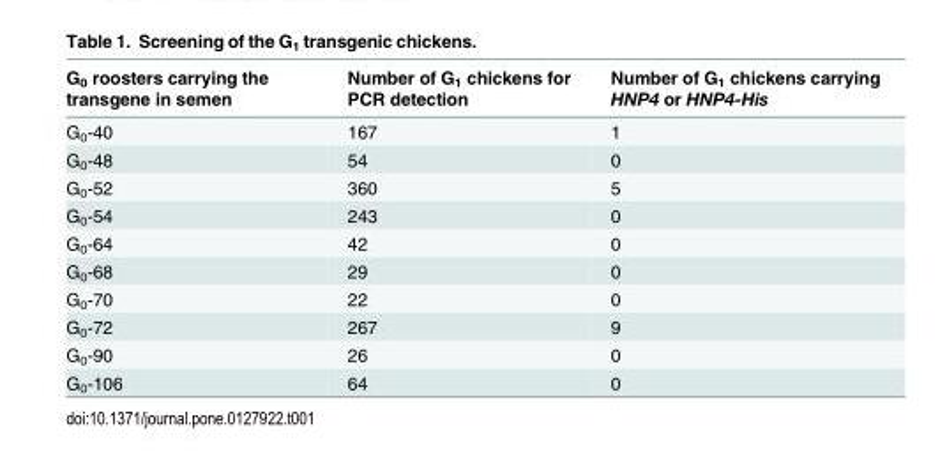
<table><thead><tr><td>G<sub>0</sub> roosters carrying the transgene in semen</td><td>Number of G<sub>1</sub> chickens for PCR detection</td><td>Number of G<sub>1</sub> chickens carrying HNP4 or HNP4-His</td></tr></thead><tbody><tr><td>G<sub>0</sub>-40</td><td>167</td><td>1</td></tr><tr><td>G<sub>0</sub>-48</td><td>54</td><td>0</td></tr><tr><td>G<sub>0</sub>-52</td><td>360</td><td>5</td></tr><tr><td>G<sub>0</sub>-54</td><td>243</td><td>0</td></tr><tr><td>G<sub>0</sub>-64</td><td>42</td><td>0</td></tr><tr><td>G<sub>0</sub>-68</td><td>29</td><td>0</td></tr><tr><td>G<sub>0</sub>-70</td><td>22</td><td>0</td></tr><tr><td>G<sub>0</sub>-72</td><td>267</td><td>9</td></tr><tr><td>G<sub>0</sub>-90</td><td>26</td><td>0</td></tr><tr><td>G<sub>0</sub>-106</td><td>64</td><td>0</td></tr></tbody></table>